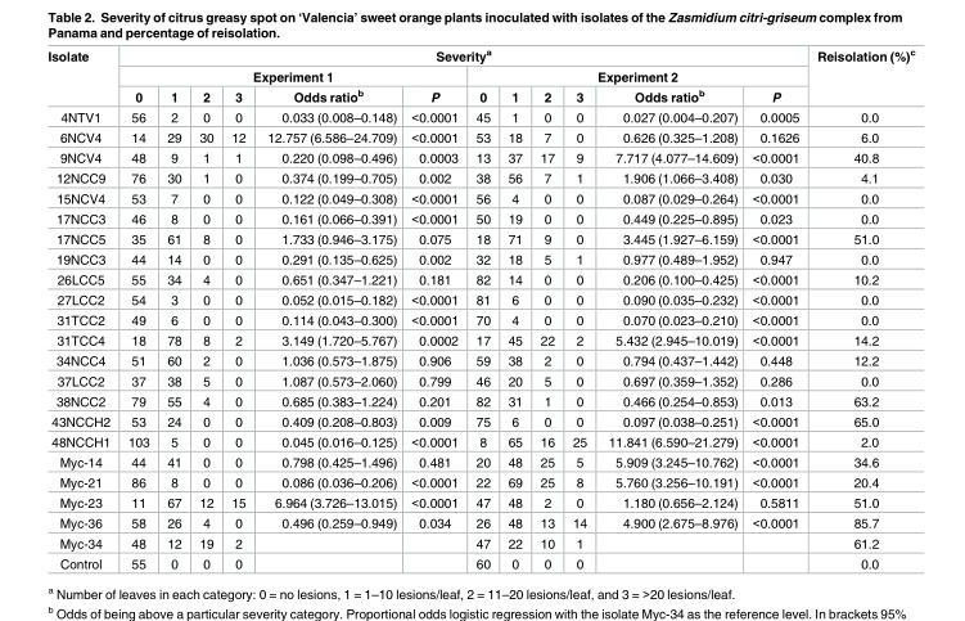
<table><thead><tr><td rowspan="3">Isolate</td><td colspan="12">Severity<sup>a</sup></td><td rowspan="3">Reisolation (%)<sup>c</sup></td></tr><tr><td colspan="6">Experiment 1</td><td colspan="6">Experiment 2</td></tr><tr><td>0</td><td>1</td><td>2</td><td>3</td><td>Odds ratio<sup>b</sup></td><td>P</td><td>0</td><td>1</td><td>2</td><td>3</td><td>Odds ratio<sup>b</sup></td><td>P</td></tr></thead><tbody><tr><td>4NTV1</td><td>56</td><td>2</td><td>0</td><td>0</td><td>0.033 (0.008–0.148)</td><td>&lt;0.0001</td><td>45</td><td>1</td><td>0</td><td>0</td><td>0.027 (0.004–0.207)</td><td>0.0005</td><td>0.0</td></tr><tr><td>6NCV4</td><td>14</td><td>29</td><td>30</td><td>12</td><td>12.757 (6.586–24.709)</td><td>&lt;0.0001</td><td>53</td><td>18</td><td>7</td><td>0</td><td>0.626 (0.325–1.208)</td><td>0.1626</td><td>6.0</td></tr><tr><td>9NCV4</td><td>48</td><td>9</td><td>1</td><td>1</td><td>0.220 (0.098–0.496)</td><td>0.0003</td><td>13</td><td>37</td><td>17</td><td>9</td><td>7.717 (4.077–14.609)</td><td>&lt;0.0001</td><td>40.8</td></tr><tr><td>12NCC9</td><td>76</td><td>30</td><td>1</td><td>0</td><td>0.374 (0.199–0.705)</td><td>0.002</td><td>38</td><td>56</td><td>7</td><td>1</td><td>1.906 (1.066–3.408)</td><td>0.030</td><td>4.1</td></tr><tr><td>15NCV4</td><td>53</td><td>7</td><td>0</td><td>0</td><td>0.122 (0.049–0.308)</td><td>&lt;0.0001</td><td>56</td><td>4</td><td>0</td><td>0</td><td>0.087 (0.029–0.264)</td><td>&lt;0.0001</td><td>0.0</td></tr><tr><td>17NCC3</td><td>46</td><td>8</td><td>0</td><td>0</td><td>0.161 (0.066–0.391)</td><td>&lt;0.0001</td><td>50</td><td>19</td><td>0</td><td>0</td><td>0.449 (0.225–0.895)</td><td>0.023</td><td>0.0</td></tr><tr><td>17NCC5</td><td>35</td><td>61</td><td>8</td><td>0</td><td>1.733 (0.946–3.175)</td><td>0.075</td><td>18</td><td>71</td><td>9</td><td>0</td><td>3.445 (1.927–6.159)</td><td>&lt;0.0001</td><td>51.0</td></tr><tr><td>19NCC3</td><td>44</td><td>14</td><td>0</td><td>0</td><td>0.291 (0.135–0.625)</td><td>0.002</td><td>32</td><td>18</td><td>5</td><td>1</td><td>0.977 (0.489–1.952)</td><td>0.947</td><td>0.0</td></tr><tr><td>26LCC5</td><td>55</td><td>34</td><td>4</td><td>0</td><td>0.651 (0.347–1.221)</td><td>0.181</td><td>82</td><td>14</td><td>0</td><td>0</td><td>0.206 (0.100–0.425)</td><td>&lt;0.0001</td><td>10.2</td></tr><tr><td>27LCC2</td><td>54</td><td>3</td><td>0</td><td>0</td><td>0.052 (0.015–0.182)</td><td>&lt;0.0001</td><td>81</td><td>6</td><td>0</td><td>0</td><td>0.090 (0.035–0.232)</td><td>&lt;0.0001</td><td>0.0</td></tr><tr><td>31TCC2</td><td>49</td><td>6</td><td>0</td><td>0</td><td>0.114 (0.043–0.300)</td><td>&lt;0.0001</td><td>70</td><td>4</td><td>0</td><td>0</td><td>0.070 (0.023–0.210)</td><td>&lt;0.0001</td><td>0.0</td></tr><tr><td>31TCC4</td><td>18</td><td>78</td><td>8</td><td>2</td><td>3.149 (1.720–5.767)</td><td>0.0002</td><td>17</td><td>45</td><td>22</td><td>2</td><td>5.432 (2.945–10.019)</td><td>&lt;0.0001</td><td>14.2</td></tr><tr><td>34NCC4</td><td>51</td><td>60</td><td>2</td><td>0</td><td>1.036 (0.573–1.875)</td><td>0.906</td><td>59</td><td>38</td><td>2</td><td>0</td><td>0.794 (0.437–1.442)</td><td>0.448</td><td>12.2</td></tr><tr><td>37LCC2</td><td>37</td><td>38</td><td>5</td><td>0</td><td>1.087 (0.573–2.060)</td><td>0.799</td><td>46</td><td>20</td><td>5</td><td>0</td><td>0.697 (0.359–1.352)</td><td>0.286</td><td>0.0</td></tr><tr><td>38NCC2</td><td>79</td><td>55</td><td>4</td><td>0</td><td>0.685 (0.383–1.224)</td><td>0.201</td><td>82</td><td>31</td><td>1</td><td>0</td><td>0.466 (0.254–0.853)</td><td>0.013</td><td>63.2</td></tr><tr><td>43NCCH2</td><td>53</td><td>24</td><td>0</td><td>0</td><td>0.409 (0.208–0.803)</td><td>0.009</td><td>75</td><td>6</td><td>0</td><td>0</td><td>0.097 (0.038–0.251)</td><td>&lt;0.0001</td><td>65.0</td></tr><tr><td>48NCCH1</td><td>103</td><td>5</td><td>0</td><td>0</td><td>0.045 (0.016–0.125)</td><td>&lt;0.0001</td><td>8</td><td>65</td><td>16</td><td>25</td><td>11.841 (6.590–21.279)</td><td>&lt;0.0001</td><td>2.0</td></tr><tr><td>Myc-14</td><td>44</td><td>41</td><td>0</td><td>0</td><td>0.798 (0.425–1.496)</td><td>0.481</td><td>20</td><td>48</td><td>25</td><td>5</td><td>5.909 (3.245–10.762)</td><td>&lt;0.0001</td><td>34.6</td></tr><tr><td>Myc-21</td><td>86</td><td>8</td><td>0</td><td>0</td><td>0.086 (0.036–0.206)</td><td>&lt;0.0001</td><td>22</td><td>69</td><td>25</td><td>8</td><td>5.760 (3.256–10.191)</td><td>&lt;0.0001</td><td>20.4</td></tr><tr><td>Myc-23</td><td>11</td><td>67</td><td>12</td><td>15</td><td>6.964 (3.726–13.015)</td><td>&lt;0.0001</td><td>47</td><td>48</td><td>2</td><td>0</td><td>1.180 (0.656–2.124)</td><td>0.5811</td><td>51.0</td></tr><tr><td>Myc-36</td><td>58</td><td>26</td><td>4</td><td>0</td><td>0.496 (0.259–0.949)</td><td>0.034</td><td>26</td><td>48</td><td>13</td><td>14</td><td>4.900 (2.675–8.976)</td><td>&lt;0.0001</td><td>85.7</td></tr><tr><td>Myc-34</td><td>48</td><td>12</td><td>19</td><td>2</td><td></td><td></td><td>47</td><td>22</td><td>10</td><td>1</td><td></td><td></td><td>61.2</td></tr><tr><td>Control</td><td>55</td><td>0</td><td>0</td><td>0</td><td></td><td></td><td>60</td><td>0</td><td>0</td><td>0</td><td></td><td></td><td>0.0</td></tr></tbody></table>